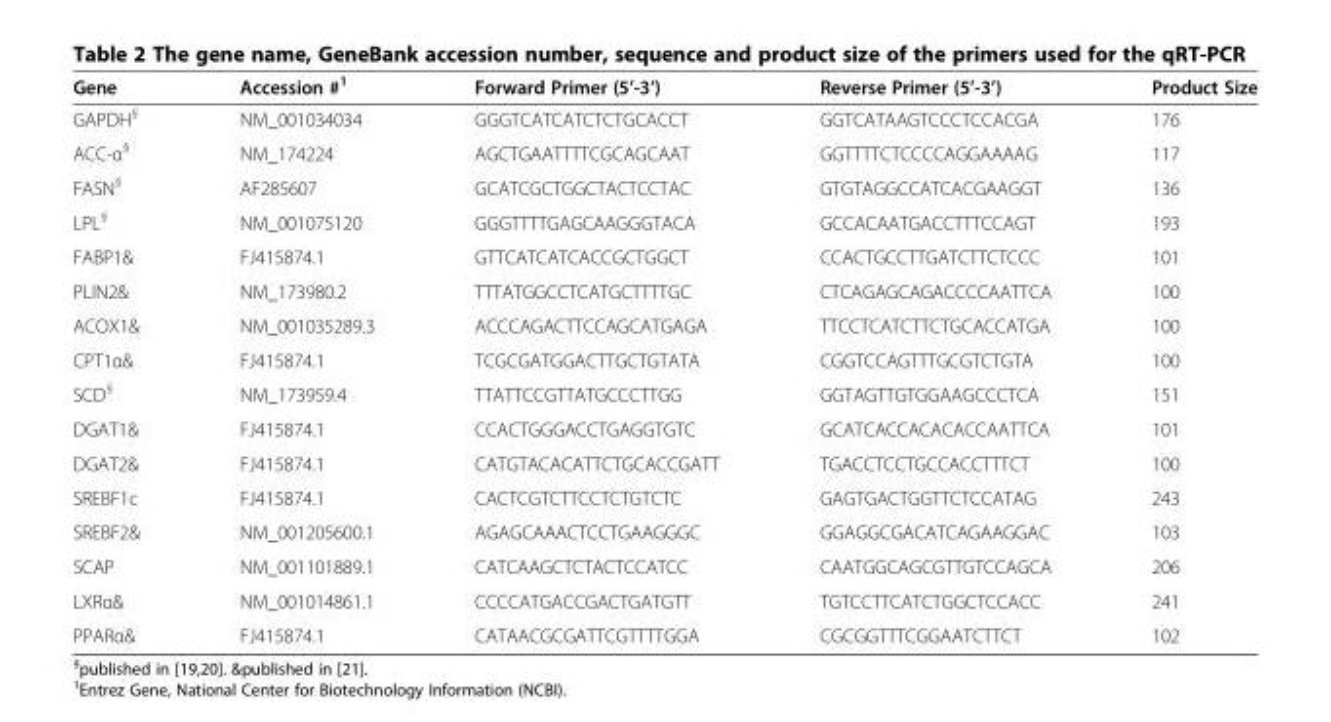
<table><thead><tr><td>Gene</td><td>Accession #<sup>1</sup></td><td>Forward Primer (5’-3’)</td><td>Reverse Primer (5’-3’)</td><td>Product Size</td></tr></thead><tbody><tr><td>GAPDH<sup>§</sup></td><td>NM_001034034</td><td>GGGTCATCATCTCTGCACCT</td><td>GGTCATAAGTCCCTCCACGA</td><td>176</td></tr><tr><td>ACC-α<sup>§</sup></td><td>NM_174224</td><td>AGCTGAATTTTCGCAGCAAT</td><td>GGTTTTCTCCCCAGGAAAAG</td><td>117</td></tr><tr><td>FASN<sup>§</sup></td><td>AF285607</td><td>GCATCGCTGGCTACTCCTAC</td><td>GTGTAGGCCATCACGAAGGT</td><td>136</td></tr><tr><td>LPL<sup>§</sup></td><td>NM_001075120</td><td>GGGTTTTGAGCAAGGGTACA</td><td>GCCACAATGACCTTTCCAGT</td><td>193</td></tr><tr><td>FABP1&amp;</td><td>FJ415874.1</td><td>GTTCATCATCACCGCTGGCT</td><td>CCACTGCCTTGATCTTCTCCC</td><td>101</td></tr><tr><td>PLIN2&amp;</td><td>NM_173980.2</td><td>TTTATGGCCTCATGCTTTTGC</td><td>CTCAGAGCAGACCCCAATTCA</td><td>100</td></tr><tr><td>ACOX1&amp;</td><td>NM_001035289.3</td><td>ACCCAGACTTCCAGCATGAGA</td><td>TTCCTCATCTTCTGCACCATGA</td><td>100</td></tr><tr><td>CPT1α&amp;</td><td>FJ415874.1</td><td>TCGCGATGGACTTGCTGTATA</td><td>CGGTCCAGTTTGCGTCTGTA</td><td>100</td></tr><tr><td>SCD<sup>§</sup></td><td>NM_173959.4</td><td>TTATTCCGTTATGCCCTTGG</td><td>GGTAGTTGTGGAAGCCCTCA</td><td>151</td></tr><tr><td>DGAT1&amp;</td><td>FJ415874.1</td><td>CCACTGGGACCTGAGGTGTC</td><td>GCATCACCACACACCAATTCA</td><td>101</td></tr><tr><td>DGAT2&amp;</td><td>FJ415874.1</td><td>CATGTACACATTCTGCACCGATT</td><td>TGACCTCCTGCCACCTTTCT</td><td>100</td></tr><tr><td>SREBF1c</td><td>FJ415874.1</td><td>CACTCGTCTTCCTCTGTCTC</td><td>GAGTGACTGGTTCTCCATAG</td><td>243</td></tr><tr><td>SREBF2&amp;</td><td>NM_001205600.1</td><td>AGAGCAAACTCCTGAAGGGC</td><td>GGAGGCGACATCAGAAGGAC</td><td>103</td></tr><tr><td>SCAP</td><td>NM_001101889.1</td><td>CATCAAGCTCTACTCCATCC</td><td>CAATGGCAGCGTTGTCCAGCA</td><td>206</td></tr><tr><td>LXRα&amp;</td><td>NM_001014861.1</td><td>CCCCATGACCGACTGATGTT</td><td>TGTCCTTCATCTGGCTCCACC</td><td>241</td></tr><tr><td>PPARα&amp;</td><td>FJ415874.1</td><td>CATAACGCGATTCGTTTTGGA</td><td>CGCGGTTTCGGAATCTTCT</td><td>102</td></tr></tbody></table>